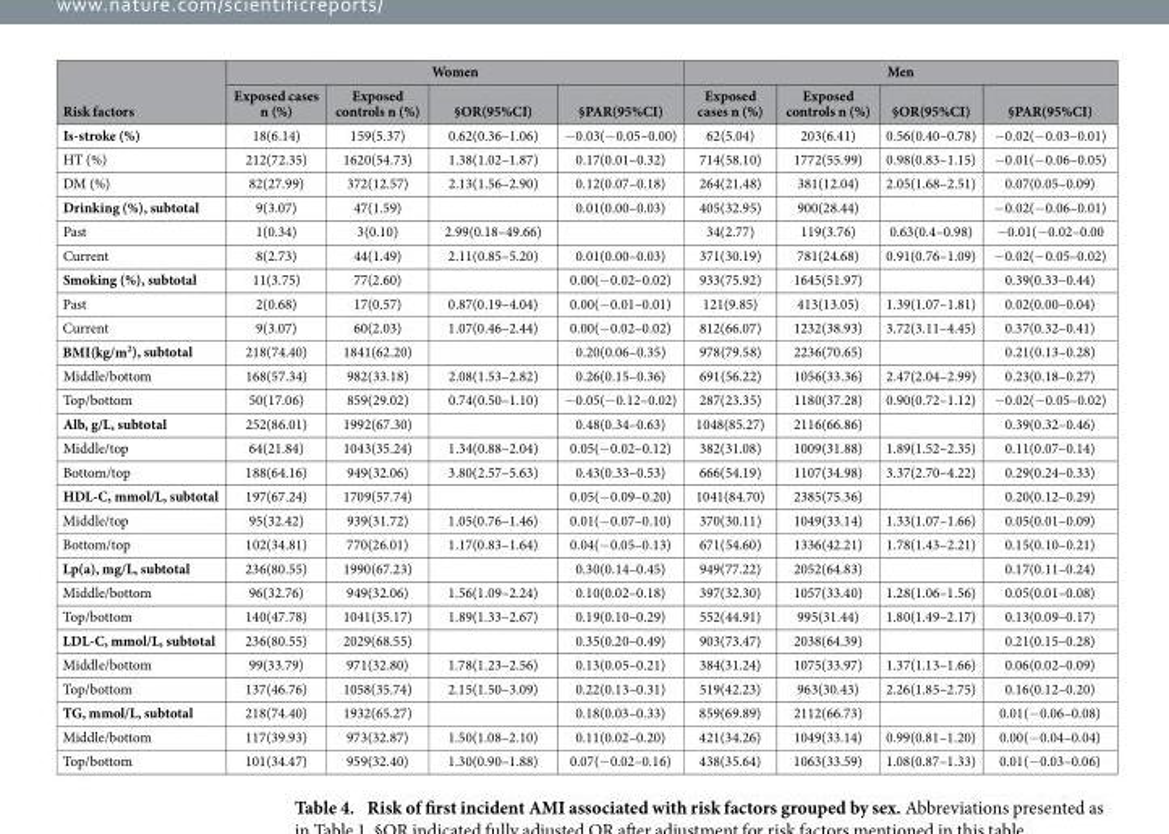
<table><thead><tr><td rowspan="2">Risk factors</td><td colspan="4">Women</td><td colspan="4">Men</td></tr><tr><td>Exposed cases n (%)</td><td>Exposed controls n (%)</td><td>§OR(95%CI)</td><td>§PAR(95%CI)</td><td>Exposed cases n (%)</td><td>Exposed controls n (%)</td><td>§OR(95%CI)</td><td>§PAR(95%CI)</td></tr></thead><tbody><tr><td>Is-stroke (%)</td><td>18(6.14)</td><td>159(5.37)</td><td>0.62(0.36–1.06)</td><td>− 0.03(− 0.05–0.00)</td><td>62(5.04)</td><td>203(6.41)</td><td>0.56(0.40–0.78)</td><td>− 0.02(− 0.03– 0.01)</td></tr><tr><td>HT (%)</td><td>212(72.35)</td><td>1620(54.73)</td><td>1.38(1.02–1.87)</td><td>0.17(0.01–0.32)</td><td>714(58.10)</td><td>1772(55.99)</td><td>0.98(0.83–1.15)</td><td>− 0.01(− 0.06–0.05)</td></tr><tr><td>DM (%)</td><td>82(27.99)</td><td>372(12.57)</td><td>2.13(1.56–2.90)</td><td>0.12(0.07–0.18)</td><td>264(21.48)</td><td>381(12.04)</td><td>2.05(1.68–2.51)</td><td>0.07(0.05–0.09)</td></tr><tr><td>Drinking (%), subtotal</td><td>9(3.07)</td><td>47(1.59)</td><td></td><td>0.01(0.00–0.03)</td><td>405(32.95)</td><td>900(28.44)</td><td></td><td>− 0.02(− 0.06–0.01)</td></tr><tr><td>Past</td><td>1(0.34)</td><td>3(0.10)</td><td>2.99(0.18–49.66)</td><td></td><td>34(2.77)</td><td>119(3.76)</td><td>0.63(0.4–0.98)</td><td>− 0.01(− 0.02–0.00</td></tr><tr><td>Current</td><td>8(2.73)</td><td>44(1.49)</td><td>2.11(0.85–5.20)</td><td>0.01(0.00–0.03)</td><td>371(30.19)</td><td>781(24.68)</td><td>0.91(0.76–1.09)</td><td>− 0.02(− 0.05–0.02)</td></tr><tr><td>Smoking (%), subtotal</td><td>11(3.75)</td><td>77(2.60)</td><td></td><td>0.00(− 0.02–0.02)</td><td>933(75.92)</td><td>1645(51.97)</td><td></td><td>0.39(0.33–0.44)</td></tr><tr><td>Past</td><td>2(0.68)</td><td>17(0.57)</td><td>0.87(0.19–4.04)</td><td>0.00(− 0.01–0.01)</td><td>121(9.85)</td><td>413(13.05)</td><td>1.39(1.07–1.81)</td><td>0.02(0.00–0.04)</td></tr><tr><td>Current</td><td>9(3.07)</td><td>60(2.03)</td><td>1.07(0.46–2.44)</td><td>0.00(− 0.02–0.02)</td><td>812(66.07)</td><td>1232(38.93)</td><td>3.72(3.11–4.45)</td><td>0.37(0.32–0.41)</td></tr><tr><td>BMI(kg/m<sup>2</sup>), subtotal</td><td>218(74.40)</td><td>1841(62.20)</td><td></td><td>0.20(0.06–0.35)</td><td>978(79.58)</td><td>2236(70.65)</td><td></td><td>0.21(0.13–0.28)</td></tr><tr><td>Middle/bottom</td><td>168(57.34)</td><td>982(33.18)</td><td>2.08(1.53–2.82)</td><td>0.26(0.15–0.36)</td><td>691(56.22)</td><td>1056(33.36)</td><td>2.47(2.04–2.99)</td><td>0.23(0.18–0.27)</td></tr><tr><td>Top/bottom</td><td>50(17.06)</td><td>859(29.02)</td><td>0.74(0.50–1.10)</td><td>− 0.05(− 0.12–0.02)</td><td>287(23.35)</td><td>1180(37.28)</td><td>0.90(0.72–1.12)</td><td>− 0.02(− 0.05–0.02)</td></tr><tr><td>Alb, g/L, subtotal</td><td>252(86.01)</td><td>1992(67.30)</td><td></td><td>0.48(0.34–0.63)</td><td>1048(85.27)</td><td>2116(66.86)</td><td></td><td>0.39(0.32–0.46)</td></tr><tr><td>Middle/top</td><td>64(21.84)</td><td>1043(35.24)</td><td>1.34(0.88–2.04)</td><td>0.05(− 0.02–0.12)</td><td>382(31.08)</td><td>1009(31.88)</td><td>1.89(1.52–2.35)</td><td>0.11(0.07–0.14)</td></tr><tr><td>Bottom/top</td><td>188(64.16)</td><td>949(32.06)</td><td>3.80(2.57–5.63)</td><td>0.43(0.33–0.53)</td><td>666(54.19)</td><td>1107(34.98)</td><td>3.37(2.70–4.22)</td><td>0.29(0.24–0.33)</td></tr><tr><td>HDL-C, mmol/L, subtotal</td><td>197(67.24)</td><td>1709(57.74)</td><td></td><td>0.05(− 0.09–0.20)</td><td>1041(84.70)</td><td>2385(75.36)</td><td></td><td>0.20(0.12–0.29)</td></tr><tr><td>Middle/top</td><td>95(32.42)</td><td>939(31.72)</td><td>1.05(0.76–1.46)</td><td>0.01(− 0.07–0.10)</td><td>370(30.11)</td><td>1049(33.14)</td><td>1.33(1.07–1.66)</td><td>0.05(0.01–0.09)</td></tr><tr><td>Bottom/top</td><td>102(34.81)</td><td>770(26.01)</td><td>1.17(0.83–1.64)</td><td>0.04(− 0.05–0.13)</td><td>671(54.60)</td><td>1336(42.21)</td><td>1.78(1.43–2.21)</td><td>0.15(0.10–0.21)</td></tr><tr><td>Lp(a), mg/L, subtotal</td><td>236(80.55)</td><td>1990(67.23)</td><td></td><td>0.30(0.14–0.45)</td><td>949(77.22)</td><td>2052(64.83)</td><td></td><td>0.17(0.11–0.24)</td></tr><tr><td>Middle/bottom</td><td>96(32.76)</td><td>949(32.06)</td><td>1.56(1.09–2.24)</td><td>0.10(0.02–0.18)</td><td>397(32.30)</td><td>1057(33.40)</td><td>1.28(1.06–1.56)</td><td>0.05(0.01–0.08)</td></tr><tr><td>Top/bottom</td><td>140(47.78)</td><td>1041(35.17)</td><td>1.89(1.33–2.67)</td><td>0.19(0.10–0.29)</td><td>552(44.91)</td><td>995(31.44)</td><td>1.80(1.49–2.17)</td><td>0.13(0.09–0.17)</td></tr><tr><td>LDL-C, mmol/L, subtotal</td><td>236(80.55)</td><td>2029(68.55)</td><td></td><td>0.35(0.20–0.49)</td><td>903(73.47)</td><td>2038(64.39)</td><td></td><td>0.21(0.15–0.28)</td></tr><tr><td>Middle/bottom</td><td>99(33.79)</td><td>971(32.80)</td><td>1.78(1.23–2.56)</td><td>0.13(0.05–0.21)</td><td>384(31.24)</td><td>1075(33.97)</td><td>1.37(1.13–1.66)</td><td>0.06(0.02–0.09)</td></tr><tr><td>Top/bottom</td><td>137(46.76)</td><td>1058(35.74)</td><td>2.15(1.50–3.09)</td><td>0.22(0.13–0.31)</td><td>519(42.23)</td><td>963(30.43)</td><td>2.26(1.85–2.75)</td><td>0.16(0.12–0.20)</td></tr><tr><td>TG, mmol/L, subtotal</td><td>218(74.40)</td><td>1932(65.27)</td><td></td><td>0.18(0.03–0.33)</td><td>859(69.89)</td><td>2112(66.73)</td><td></td><td>0.01(− 0.06–0.08)</td></tr><tr><td>Middle/bottom</td><td>117(39.93)</td><td>973(32.87)</td><td>1.50(1.08–2.10)</td><td>0.11(0.02–0.20)</td><td>421(34.26)</td><td>1049(33.14)</td><td>0.99(0.81–1.20)</td><td>0.00(− 0.04–0.04)</td></tr><tr><td>Top/bottom</td><td>101(34.47)</td><td>959(32.40)</td><td>1.30(0.90–1.88)</td><td>0.07(− 0.02–0.16)</td><td>438(35.64)</td><td>1063(33.59)</td><td>1.08(0.87–1.33)</td><td>0.01(− 0.03–0.06)</td></tr></tbody></table>